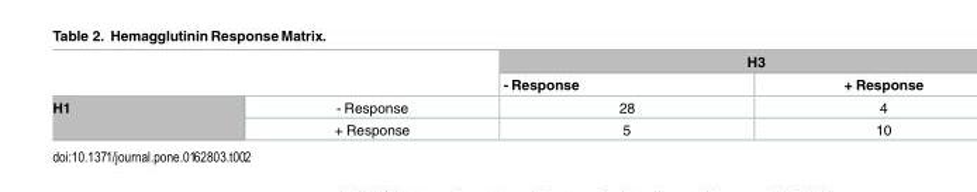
<table><thead><tr><td rowspan="2"></td><td rowspan="2"></td><td colspan="2">H3</td></tr><tr><td>- Response</td><td>+ Response</td></tr></thead><tbody><tr><td rowspan="2">H1</td><td>- Response</td><td>28</td><td>4</td></tr><tr><td>+ Response</td><td>5</td><td>10</td></tr></tbody></table>